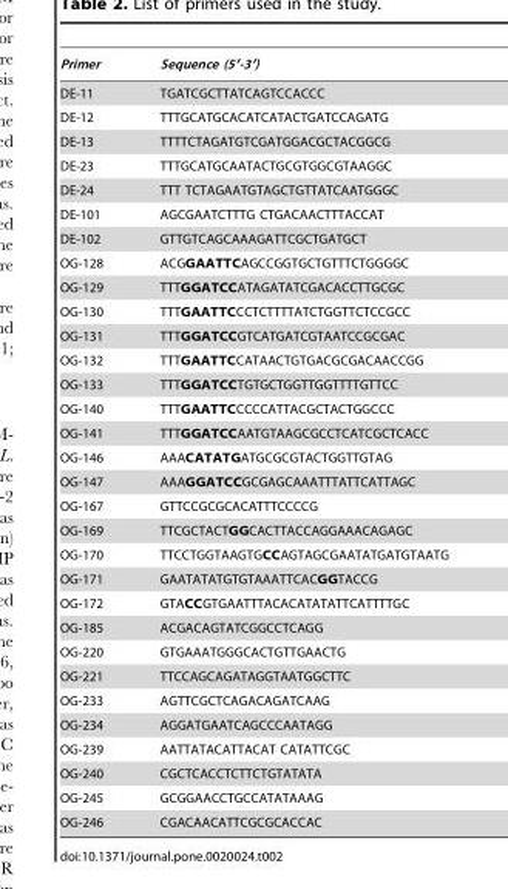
<table><thead><tr><td>Primer</td><td>Sequence (5′-3′)</td></tr></thead><tbody><tr><td>DE-11</td><td>TGATCGCTTATCAGTCCACCC</td></tr><tr><td>DE-12</td><td>TTTGCATGCACATCATACTGATCCAGATG</td></tr><tr><td>DE-13</td><td>TTTTCTAGATGTCGATGGACGCTACGGCG</td></tr><tr><td>DE-23</td><td>TTTGCATGCAATACTGCGTGGCGTAAGGC</td></tr><tr><td>DE-24</td><td>TTT TCTAGAATGTAGCTGTTATCAATGGGC</td></tr><tr><td>DE-101</td><td>AGCGAATCTTTG CTGACAACTTTACCAT</td></tr><tr><td>DE-102</td><td>GTTGTCAGCAAAGATTCGCTGATGCT</td></tr><tr><td>OG-128</td><td>ACGGAATTCAGCCGGTGCTGTTTCTGGGGC</td></tr><tr><td>OG-129</td><td>TTTGGATCCATAGATATCGACACCTTGCGC</td></tr><tr><td>OG-130</td><td>TTTGAATTCCCTCTTTTATCTGGTTCTCCGCC</td></tr><tr><td>OG-131</td><td>TTTGGATCCGTCATGATCGTAATCCGCGAC</td></tr><tr><td>OG-132</td><td>TTTGAATTCCATAACTGTGACGCGACAACCGG</td></tr><tr><td>OG-133</td><td>TTTGGATCCTGTGCTGGTTGGTTTTGTTCC</td></tr><tr><td>OG-140</td><td>TTTGAATTCCCCCATTACGCTACTGGCCC</td></tr><tr><td>OG-141</td><td>TTTGGATCCAATGTAAGCGCCTCATCGCTCACC</td></tr><tr><td>OG-146</td><td>AAACATATGATGCGCGTACTGGTTGTAG</td></tr><tr><td>OG-147</td><td>AAAGGATCCGCGAGCAAATTTATTCATTAGC</td></tr><tr><td>OG-167</td><td>GTTCCGCGCACATTTCCCCG</td></tr><tr><td>OG-169</td><td>TTCGCTACTGGCACTTACCAGGAAACAGAGC</td></tr><tr><td>OG-170</td><td>TTCCTGGTAAGTGCCAGTAGCGAATATGATGTAATG</td></tr><tr><td>OG-171</td><td>GAATATATGTGTAAATTCACGGTACCG</td></tr><tr><td>OG-172</td><td>GTACCGTGAATTTACACATATATTCATTTTGC</td></tr><tr><td>OG-185</td><td>ACGACAGTATCGGCCTCAGG</td></tr><tr><td>OG-220</td><td>GTGAAATGGGCACTGTTGAACTG</td></tr><tr><td>OG-221</td><td>TTCCAGCAGATAGGTAATGGCTTC</td></tr><tr><td>OG-233</td><td>AGTTCGCTCAGACAGATCAAG</td></tr><tr><td>OG-234</td><td>AGGATGAATCAGCCCAATAGG</td></tr><tr><td>OG-239</td><td>AATTATACATTACAT CATATTCGC</td></tr><tr><td>OG-240</td><td>CGCTCACCTCTTCTGTATATA</td></tr><tr><td>OG-245</td><td>GCGGAACCTGCCATATAAAG</td></tr><tr><td>OG-246</td><td>CGACAACATTCGCGCACCAC</td></tr></tbody></table>